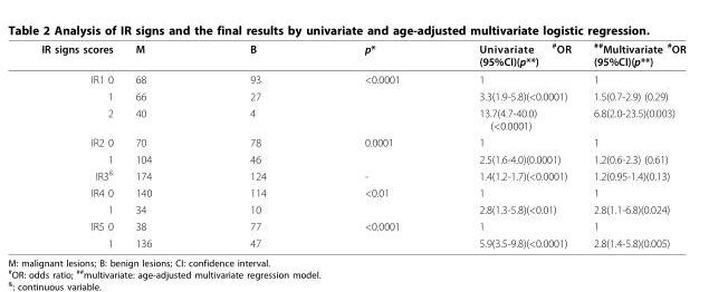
<table><thead><tr><td>IR signs scores</td><td>M</td><td>B</td><td>p*</td><td>Univariate <sup>#</sup>OR (95%CI)(p**)</td><td><sup>##</sup>Multivariate <sup>#</sup>OR (95%CI)(p**)</td></tr></thead><tbody><tr><td>IR1 0</td><td>68</td><td>93</td><td>&lt;0.0001</td><td>1</td><td>1</td></tr><tr><td>1</td><td>66</td><td>27</td><td></td><td>3.3(1.9-5.8)(&lt;0.0001)</td><td>1.5(0.7-2.9) (0.29)</td></tr><tr><td>2</td><td>40</td><td>4</td><td></td><td>13.7(4.7-40.0) (&lt;0.0001)</td><td>6.8(2.0-23.5)(0.003)</td></tr><tr><td>IR2 0</td><td>70</td><td>78</td><td>0.0001</td><td>1</td><td>1</td></tr><tr><td>1</td><td>104</td><td>46</td><td></td><td>2.5(1.6-4.0)(0.0001)</td><td>1.2(0.6-2.3) (0.61)</td></tr><tr><td>IR3<sup>&amp;</sup></td><td>174</td><td>124</td><td>-</td><td>1.4(1.2-1.7)(&lt;0.0001)</td><td>1.2(0.95-1.4)(0.13)</td></tr><tr><td>IR4 0</td><td>140</td><td>114</td><td>&lt;0.01</td><td>1</td><td>1</td></tr><tr><td>1</td><td>34</td><td>10</td><td></td><td>2.8(1.3-5.8)(&lt;0.01)</td><td>2.8(1.1-6.8)(0.024)</td></tr><tr><td>IR5 0</td><td>38</td><td>77</td><td>&lt;0.0001</td><td>1</td><td>1</td></tr><tr><td>1</td><td>136</td><td>47</td><td></td><td>5.9(3.5-9.8)(&lt;0.0001)</td><td>2.8(1.4-5.8)(0.005)</td></tr></tbody></table>